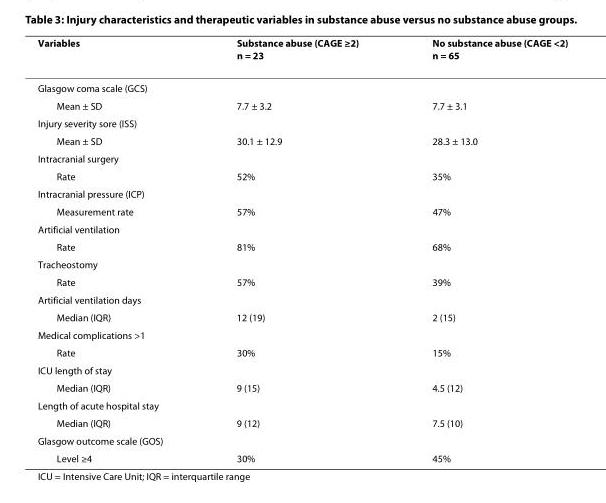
<table><thead><tr><td>Variables</td><td>Substance abuse (CAGE ≥2) n = 23</td><td>No substance abuse (CAGE &lt;2) n = 65</td></tr></thead><tbody><tr><td colspan="3">Glasgow coma scale (GCS)</td></tr><tr><td>Mean ± SD</td><td>7.7 ± 3.2</td><td>7.7 ± 3.1</td></tr><tr><td colspan="3">Injury severity sore (ISS)</td></tr><tr><td>Mean ± SD</td><td>30.1 ± 12.9</td><td>28.3 ± 13.0</td></tr><tr><td colspan="3">Intracranial surgery</td></tr><tr><td>Rate</td><td>52%</td><td>35%</td></tr><tr><td colspan="3">Intracranial pressure (ICP)</td></tr><tr><td>Measurement rate</td><td>57%</td><td>47%</td></tr><tr><td colspan="3">Artificial ventilation</td></tr><tr><td>Rate</td><td>81%</td><td>68%</td></tr><tr><td colspan="3">Tracheostomy</td></tr><tr><td>Rate</td><td>57%</td><td>39%</td></tr><tr><td colspan="3">Artificial ventilation days</td></tr><tr><td>Median (IQR)</td><td>12 (19)</td><td>2 (15)</td></tr><tr><td colspan="3">Medical complications &gt;1</td></tr><tr><td>Rate</td><td>30%</td><td>15%</td></tr><tr><td colspan="3">ICU length of stay</td></tr><tr><td>Median (IQR)</td><td>9 (15)</td><td>4.5 (12)</td></tr><tr><td colspan="3">Length of acute hospital stay</td></tr><tr><td>Median (IQR)</td><td>9 (12)</td><td>7.5 (10)</td></tr><tr><td colspan="3">Glasgow outcome scale (GOS)</td></tr><tr><td>Level ≥4</td><td>30%</td><td>45%</td></tr></tbody></table>